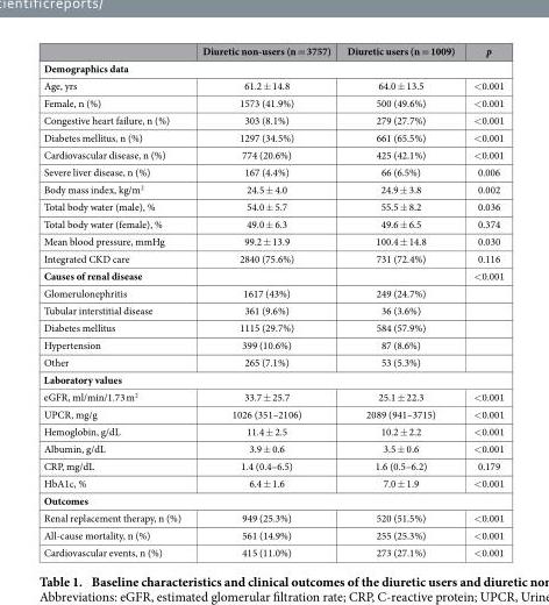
<table><thead><tr><td></td><td>Diuretic non-users (n = 3757)</td><td>Diuretic users (n = 1009)</td><td>p</td></tr></thead><tbody><tr><td colspan="4">Demographics data</td></tr><tr><td>Age, yrs</td><td>61.2 ± 14.8</td><td>64.0 ± 13.5</td><td>&lt; 0.001</td></tr><tr><td>Female, n (%)</td><td>1573 (41.9%)</td><td>500 (49.6%)</td><td>&lt; 0.001</td></tr><tr><td>Congestive heart failure, n (%)</td><td>303 (8.1%)</td><td>279 (27.7%)</td><td>&lt; 0.001</td></tr><tr><td>Diabetes mellitus, n (%)</td><td>1297 (34.5%)</td><td>661 (65.5%)</td><td>&lt; 0.001</td></tr><tr><td>Cardiovascular disease, n (%)</td><td>774 (20.6%)</td><td>425 (42.1%)</td><td>&lt; 0.001</td></tr><tr><td>Severe liver disease, n (%)</td><td>167 (4.4%)</td><td>66 (6.5%)</td><td>0.006</td></tr><tr><td>Body mass index, kg/m<sup>2</sup></td><td>24.5 ± 4.0</td><td>24.9 ± 3.8</td><td>0.002</td></tr><tr><td>Total body water (male), %</td><td>54.0 ± 5.7</td><td>55.5 ± 8.2</td><td>0.036</td></tr><tr><td>Total body water (female), %</td><td>49.0 ± 6.3</td><td>49.6 ± 6.5</td><td>0.374</td></tr><tr><td>Mean blood pressure, mmHg</td><td>99.2 ± 13.9</td><td>100.4 ± 14.8</td><td>0.030</td></tr><tr><td>Integrated CKD care</td><td>2840 (75.6%)</td><td>731 (72.4%)</td><td>0.116</td></tr><tr><td>Causes of renal disease</td><td></td><td></td><td>&lt; 0.001</td></tr><tr><td>Glomerulonephritis</td><td>1617 (43%)</td><td>249 (24.7%)</td><td></td></tr><tr><td>Tubular interstitial disease</td><td>361 (9.6%)</td><td>36 (3.6%)</td><td></td></tr><tr><td>Diabetes mellitus</td><td>1115 (29.7%)</td><td>584 (57.9%)</td><td></td></tr><tr><td>Hypertension</td><td>399 (10.6%)</td><td>87 (8.6%)</td><td></td></tr><tr><td>Other</td><td>265 (7.1%)</td><td>53 (5.3%)</td><td></td></tr><tr><td colspan="4">Laboratory values</td></tr><tr><td>eGFR, ml/min/1.73 m<sup>2</sup></td><td>33.7 ± 25.7</td><td>25.1 ± 22.3</td><td>&lt; 0.001</td></tr><tr><td>UPCR, mg/g</td><td>1026 (351–2106)</td><td>2089 (941–3715)</td><td>&lt; 0.001</td></tr><tr><td>Hemoglobin, g/dL</td><td>11.4 ± 2.5</td><td>10.2 ± 2.2</td><td>&lt; 0.001</td></tr><tr><td>Albumin, g/dL</td><td>3.9 ± 0.6</td><td>3.5 ± 0.6</td><td>&lt; 0.001</td></tr><tr><td>CRP, mg/dL</td><td>1.4 (0.4–6.5)</td><td>1.6 (0.5–6.2)</td><td>0.179</td></tr><tr><td>HbA1c, %</td><td>6.4 ± 1.6</td><td>7.0 ± 1.9</td><td>&lt; 0.001</td></tr><tr><td colspan="4">Outcomes</td></tr><tr><td>Renal replacement therapy, n (%)</td><td>949 (25.3%)</td><td>520 (51.5%)</td><td>&lt; 0.001</td></tr><tr><td>All-cause mortality, n (%)</td><td>561 (14.9%)</td><td>255 (25.3%)</td><td>&lt; 0.001</td></tr><tr><td>Cardiovascular events, n (%)</td><td>415 (11.0%)</td><td>273 (27.1%)</td><td>&lt; 0.001</td></tr></tbody></table>